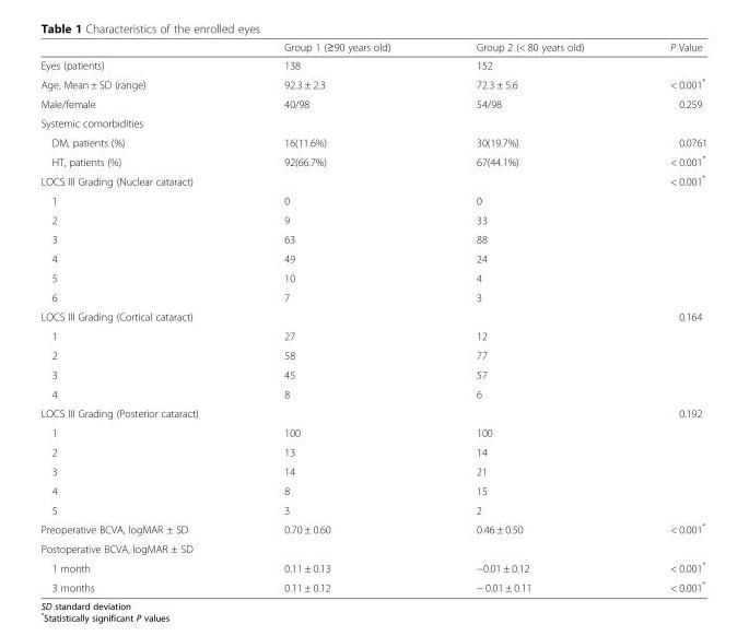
<table><thead><tr><td></td><td>Group 1 (≥90 years old)</td><td>Group 2 (&lt; 80 years old)</td><td>P Value</td></tr></thead><tbody><tr><td>Eyes (patients)</td><td>138</td><td>152</td><td></td></tr><tr><td>Age, Mean ± SD (range)</td><td>92.3 ± 2.3</td><td>72.3 ± 5.6</td><td>&lt; 0.001*</td></tr><tr><td>Male/female</td><td>40/98</td><td>54/98</td><td>0.259</td></tr><tr><td colspan="4">Systemic comorbidities</td></tr><tr><td>DM, patients (%)</td><td>16(11.6%)</td><td>30(19.7%)</td><td>0.0761</td></tr><tr><td>HT, patients (%)</td><td>92(66.7%)</td><td>67(44.1%)</td><td>&lt; 0.001*</td></tr><tr><td>LOCS III Grading (Nuclear cataract)</td><td></td><td></td><td>&lt; 0.001*</td></tr><tr><td>1</td><td>0</td><td>0</td><td></td></tr><tr><td>2</td><td>9</td><td>33</td><td></td></tr><tr><td>3</td><td>63</td><td>88</td><td></td></tr><tr><td>4</td><td>49</td><td>24</td><td></td></tr><tr><td>5</td><td>10</td><td>4</td><td></td></tr><tr><td>6</td><td>7</td><td>3</td><td></td></tr><tr><td>LOCS III Grading (Cortical cataract)</td><td></td><td></td><td>0.164</td></tr><tr><td>1</td><td>27</td><td>12</td><td></td></tr><tr><td>2</td><td>58</td><td>77</td><td></td></tr><tr><td>3</td><td>45</td><td>57</td><td></td></tr><tr><td>4</td><td>8</td><td>6</td><td></td></tr><tr><td>LOCS III Grading (Posterior cataract)</td><td></td><td></td><td>0.192</td></tr><tr><td>1</td><td>100</td><td>100</td><td></td></tr><tr><td>2</td><td>13</td><td>14</td><td></td></tr><tr><td>3</td><td>14</td><td>21</td><td></td></tr><tr><td>4</td><td>8</td><td>15</td><td></td></tr><tr><td>5</td><td>3</td><td>2</td><td></td></tr><tr><td>Preoperative BCVA, logMAR ± SD</td><td>0.70 ± 0.60</td><td>0.46 ± 0.50</td><td>&lt; 0.001*</td></tr><tr><td colspan="4">Postoperative BCVA, logMAR ± SD</td></tr><tr><td>1 month</td><td>0.11 ± 0.13</td><td>−0.01 ± 0.12</td><td>&lt; 0.001*</td></tr><tr><td>3 months</td><td>0.11 ± 0.12</td><td>− 0.01 ± 0.11</td><td>&lt; 0.001*</td></tr></tbody></table>